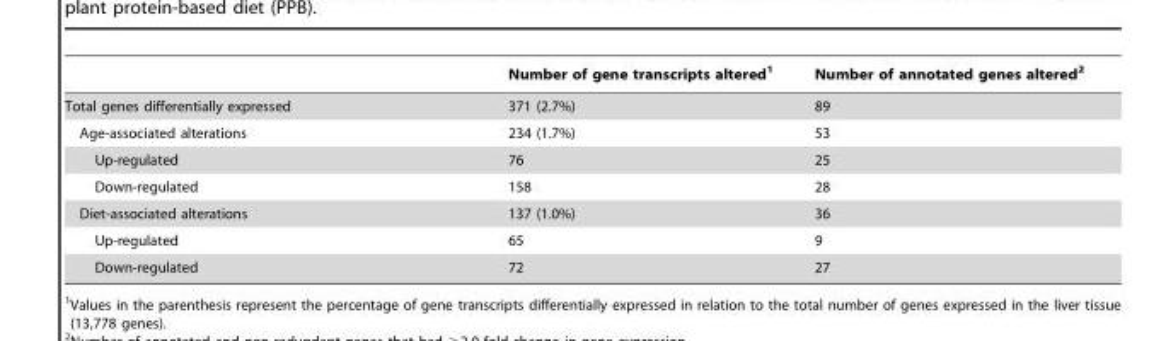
<table><thead><tr><td></td><td>Number of gene transcripts altered<sup>1</sup></td><td>Number of annotated genes altered<sup>2</sup></td></tr></thead><tbody><tr><td>Total genes differentially expressed</td><td>371 (2.7%)</td><td>89</td></tr><tr><td>Age-associated alterations</td><td>234 (1.7%)</td><td>53</td></tr><tr><td>Up-regulated</td><td>76</td><td>25</td></tr><tr><td>Down-regulated</td><td>158</td><td>28</td></tr><tr><td>Diet-associated alterations</td><td>137 (1.0%)</td><td>36</td></tr><tr><td>Up-regulated</td><td>65</td><td>9</td></tr><tr><td>Down-regulated</td><td>72</td><td>27</td></tr></tbody></table>